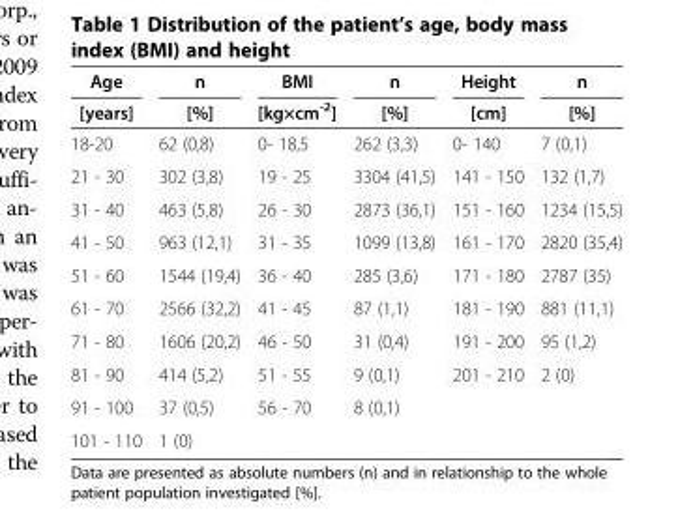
<table><thead><tr><td rowspan="2">Age [years]</td><td rowspan="2">n [%]</td><td rowspan="2">BMI [kg×cm<sup>-2</sup>]</td><td rowspan="2">n [%]</td><td rowspan="2">Height [cm]</td><td rowspan="2">n [%]</td></tr><tr></tr></thead><tbody><tr><td>18-20</td><td>62 (0,8)</td><td>0- 18,5</td><td>262 (3,3)</td><td>0- 140</td><td>7 (0,1)</td></tr><tr><td>21 - 30</td><td>302 (3,8)</td><td>19 - 25</td><td>3304 (41,5)</td><td>141 - 150</td><td>132 (1,7)</td></tr><tr><td>31 - 40</td><td>463 (5,8)</td><td>26 - 30</td><td>2873 (36,1)</td><td>151 - 160</td><td>1234 (15,5)</td></tr><tr><td>41 - 50</td><td>963 (12,1)</td><td>31 - 35</td><td>1099 (13,8)</td><td>161 - 170</td><td>2820 (35,4)</td></tr><tr><td>51 - 60</td><td>1544 (19,4)</td><td>36 - 40</td><td>285 (3,6)</td><td>171 - 180</td><td>2787 (35)</td></tr><tr><td>61 - 70</td><td>2566 (32,2)</td><td>41 - 45</td><td>87 (1,1)</td><td>181 - 190</td><td>881 (11,1)</td></tr><tr><td>71 - 80</td><td>1606 (20,2)</td><td>46 - 50</td><td>31 (0,4)</td><td>191 - 200</td><td>95 (1,2)</td></tr><tr><td>81 - 90</td><td>414 (5,2)</td><td>51 - 55</td><td>9 (0,1)</td><td>201 - 210</td><td>2 (0)</td></tr><tr><td>91 - 100</td><td>37 (0,5)</td><td>56 - 70</td><td>8 (0,1)</td><td></td><td></td></tr><tr><td>101 - 110</td><td>1 (0)</td><td></td><td></td><td></td><td></td></tr></tbody></table>